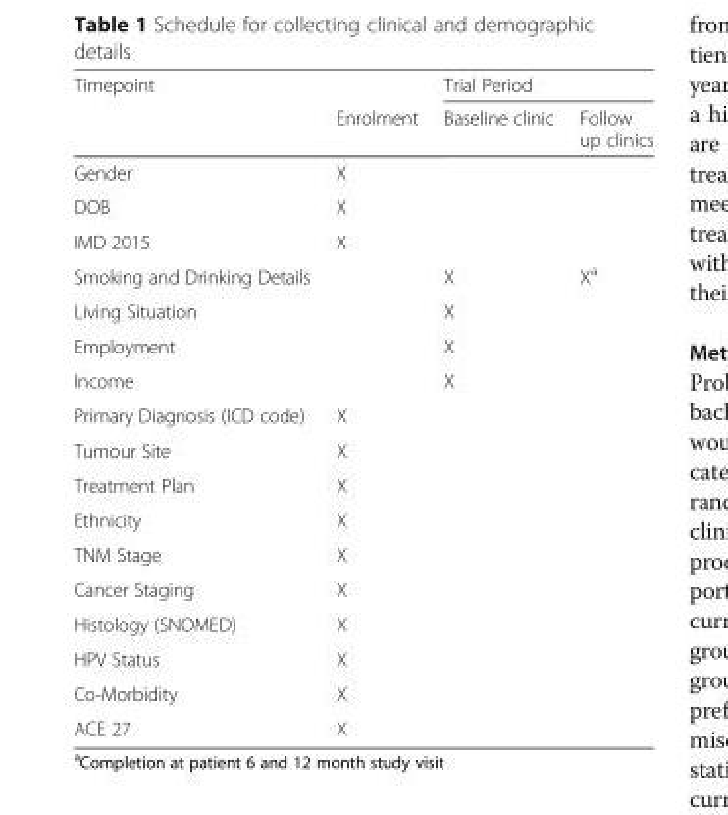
<table><thead><tr><td colspan="2">Timepoint</td><td colspan="2">Trial Period</td></tr><tr><td></td><td>Enrolment</td><td>Baseline clinic</td><td>Follow up clinics</td></tr></thead><tbody><tr><td>Gender</td><td>X</td><td></td><td></td></tr><tr><td>DOB</td><td>X</td><td></td><td></td></tr><tr><td>IMD 2015</td><td>X</td><td></td><td></td></tr><tr><td>Smoking and Drinking Details</td><td></td><td>X</td><td>X<sup>a</sup></td></tr><tr><td>Living Situation</td><td></td><td>X</td><td></td></tr><tr><td>Employment</td><td></td><td>X</td><td></td></tr><tr><td>Income</td><td></td><td>X</td><td></td></tr><tr><td>Primary Diagnosis (ICD code)</td><td>X</td><td></td><td></td></tr><tr><td>Tumour Site</td><td>X</td><td></td><td></td></tr><tr><td>Treatment Plan</td><td>X</td><td></td><td></td></tr><tr><td>Ethnicity</td><td>X</td><td></td><td></td></tr><tr><td>TNM Stage</td><td>X</td><td></td><td></td></tr><tr><td>Cancer Staging</td><td>X</td><td></td><td></td></tr><tr><td>Histology (SNOMED)</td><td>X</td><td></td><td></td></tr><tr><td>HPV Status</td><td>X</td><td></td><td></td></tr><tr><td>Co-Morbidity</td><td>X</td><td></td><td></td></tr><tr><td>ACE 27</td><td>X</td><td></td><td></td></tr></tbody></table>